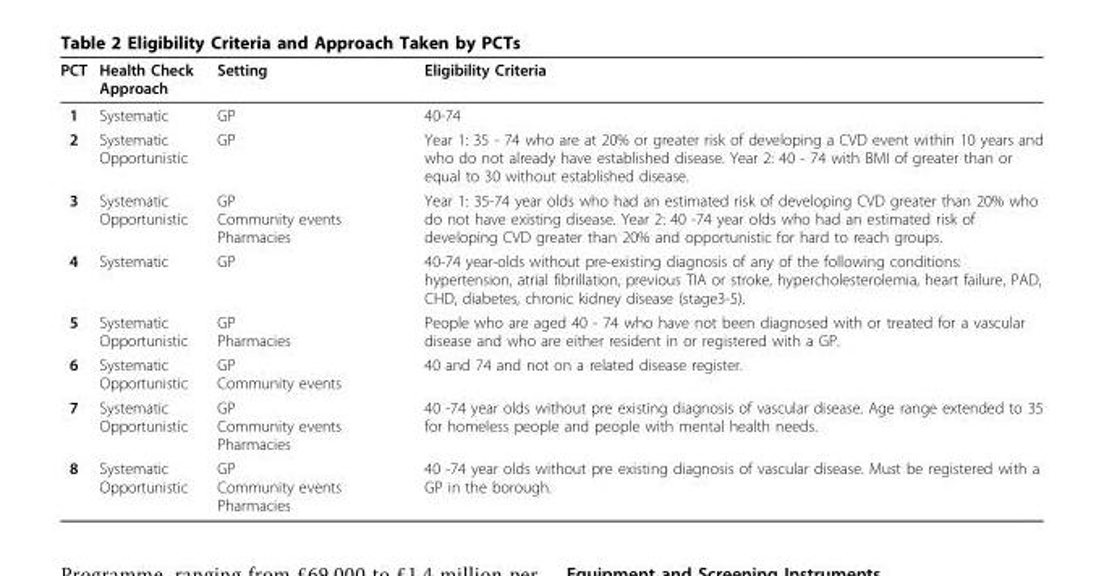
<table><thead><tr><td>PCT</td><td>Health Check Approach</td><td>Setting</td><td>Eligibility Criteria</td></tr></thead><tbody><tr><td>1</td><td>Systematic</td><td>GP</td><td>40-74</td></tr><tr><td>2</td><td>Systematic Opportunistic</td><td>GP</td><td>Year 1: 35 - 74 who are at 20% or greater risk of developing a CVD event within 10 years and who do not already have established disease. Year 2: 40 - 74 with BMI of greater than or equal to 30 without established disease.</td></tr><tr><td>3</td><td>Systematic Opportunistic</td><td>GP Community events Pharmacies</td><td>Year 1: 35-74 year olds who had an estimated risk of developing CVD greater than 20% who do not have existing disease. Year 2: 40 -74 year olds who had an estimated risk of developing CVD greater than 20% and opportunistic for hard to reach groups.</td></tr><tr><td>4</td><td>Systematic</td><td>GP</td><td>40-74 year-olds without pre-existing diagnosis of any of the following conditions: hypertension, atrial fibrillation, previous TIA or stroke, hypercholesterolemia, heart failure, PAD, CHD, diabetes, chronic kidney disease (stage3-5).</td></tr><tr><td>5</td><td>Systematic Opportunistic</td><td>GP Pharmacies</td><td>People who are aged 40 - 74 who have not been diagnosed with or treated for a vascular disease and who are either resident in or registered with a GP.</td></tr><tr><td>6</td><td>Systematic Opportunistic</td><td>GP Community events</td><td>40 and 74 and not on a related disease register.</td></tr><tr><td>7</td><td>Systematic Opportunistic</td><td>GP Community events Pharmacies</td><td>40 -74 year olds without pre existing diagnosis of vascular disease. Age range extended to 35 for homeless people and people with mental health needs.</td></tr><tr><td>8</td><td>Systematic Opportunistic</td><td>GP Community events Pharmacies</td><td>40 -74 year olds without pre existing diagnosis of vascular disease. Must be registered with a GP in the borough.</td></tr></tbody></table>